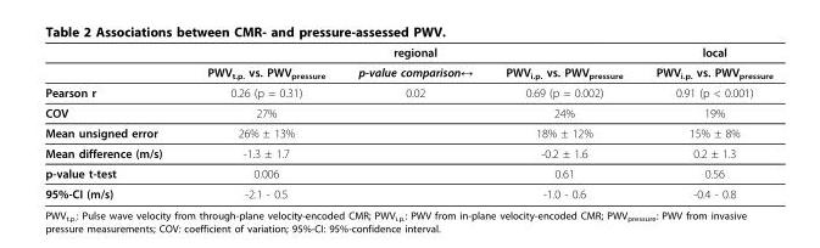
<table><thead><tr><td rowspan="2"></td><td colspan="3">regional</td><td rowspan="2">local PWVi.p. vs. PWVpressure</td></tr><tr><td>PWVt.p. vs. PWVpressure</td><td>p-value comparison↔</td><td>PWVi.p. vs. PWVpressure</td></tr></thead><tbody><tr><td>Pearson r</td><td>0.26 (p = 0.31)</td><td>0.02</td><td>0.69 (p = 0.002)</td><td>0.91 (p &lt; 0.001)</td></tr><tr><td>COV</td><td>27%</td><td></td><td>24%</td><td>19%</td></tr><tr><td>Mean unsigned error</td><td>26% ± 13%</td><td></td><td>18% ± 12%</td><td>15% ± 8%</td></tr><tr><td>Mean difference (m/s)</td><td>-1.3 ± 1.7</td><td></td><td>-0.2 ± 1.6</td><td>0.2 ± 1.3</td></tr><tr><td>p-value t-test</td><td>0.006</td><td></td><td>0.61</td><td>0.56</td></tr><tr><td>95%-CI (m/s)</td><td>-2.1 - 0.5</td><td></td><td>-1.0 - 0.6</td><td>-0.4 - 0.8</td></tr></tbody></table>